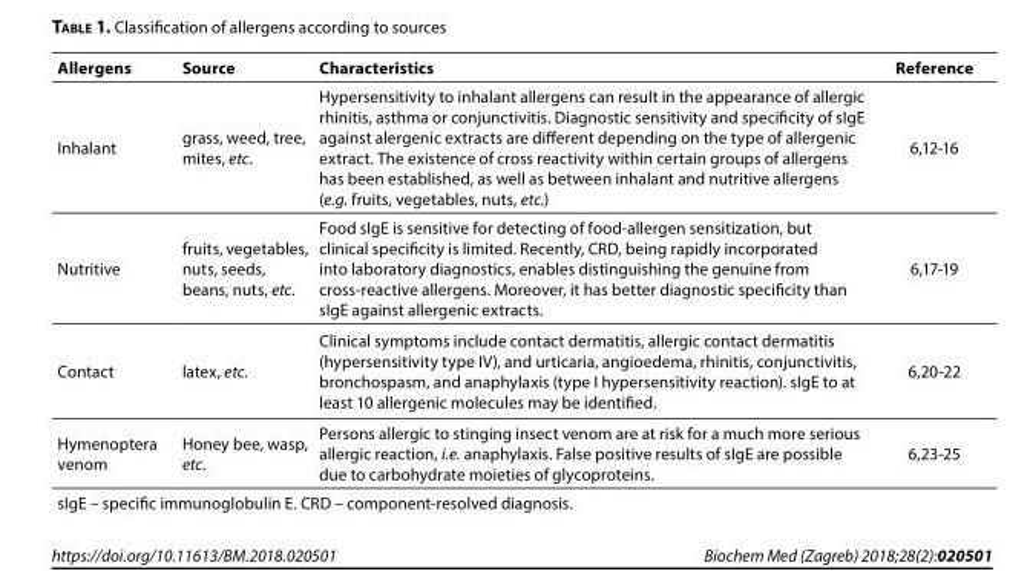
<table><thead><tr><td>Allergens</td><td>Source</td><td>Characteristics</td><td>Reference</td></tr></thead><tbody><tr><td>Inhalant</td><td>grass, weed, tree, mites, etc.</td><td>Hypersensitivity to inhalant allergens can result in the appearance of allergic rhinitis, asthma or conjunctivitis. Diagnostic sensitivity and specificity of sIgE against alergenic extracts are different depending on the type of allergenic extract. The existence of cross reactivity within certain groups of allergens has been established, as well as between inhalant and nutritive allergens (e.g. fruits, vegetables, nuts, etc.)</td><td>6,12-16</td></tr><tr><td>Nutritive</td><td>fruits, vegetables, nuts, seeds, beans, nuts, etc.</td><td>Food sIgE is sensitive for detecting of food-allergen sensitization, but clinical specificity is limited. Recently, CRD, being rapidly incorporated into laboratory diagnostics, enables distinguishing the genuine from cross-reactive allergens. Moreover, it has better diagnostic specificity than sIgE against allergenic extracts.</td><td>6,17-19</td></tr><tr><td>Contact</td><td>latex, etc.</td><td>Clinical symptoms include contact dermatitis, allergic contact dermatitis (hypersensitivity type IV), and urticaria, angioedema, rhinitis, conjunctivitis, bronchospasm, and anaphylaxis (type I hypersensitivity reaction). sIgE to at least 10 allergenic molecules may be identified.</td><td>6,20-22</td></tr><tr><td>Hymenoptera venom</td><td>Honey bee, wasp, etc.</td><td>Persons allergic to stinging insect venom are at risk for a much more serious allergic reaction, i.e. anaphylaxis. False positive results of sIgE are possible due to carbohydrate moieties of glycoproteins.</td><td>6,23-25</td></tr><tr><td colspan="4">sIgE – specific immunoglobulin E. CRD – component-resolved diagnosis.</td></tr></tbody></table>